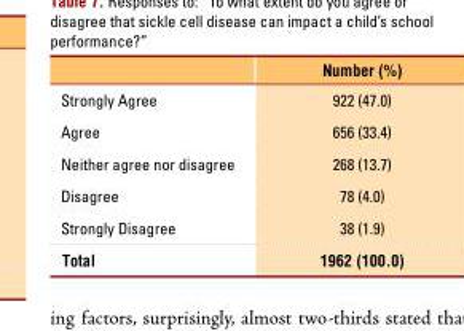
<table><thead><tr><td></td><td>Number (%)</td></tr></thead><tbody><tr><td>Strongly Agree</td><td>922 (47.0)</td></tr><tr><td>Agree</td><td>656 (33.4)</td></tr><tr><td>Neither agree nor disagree</td><td>268 (13.7)</td></tr><tr><td>Disagree</td><td>78 (4.0)</td></tr><tr><td>Strongly Disagree</td><td>38 (1.9)</td></tr><tr><td>Total</td><td>1962 (100.0)</td></tr></tbody></table>